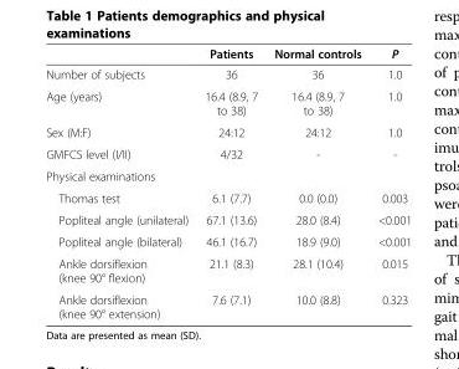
<table><thead><tr><td></td><td>Patients</td><td>Normal controls</td><td>P</td></tr></thead><tbody><tr><td>Number of subjects</td><td>36</td><td>36</td><td>1.0</td></tr><tr><td>Age (years)</td><td>16.4 (8.9, 7 to 38)</td><td>16.4 (8.9, 7 to 38)</td><td>1.0</td></tr><tr><td>Sex (M:F)</td><td>24:12</td><td>24:12</td><td>1.0</td></tr><tr><td>GMFCS level (I/II)</td><td>4/32</td><td>-</td><td>-</td></tr><tr><td colspan="4">Physical examinations</td></tr><tr><td>Thomas test</td><td>6.1 (7.7)</td><td>0.0 (0.0)</td><td>0.003</td></tr><tr><td>Popliteal angle (unilateral)</td><td>67.1 (13.6)</td><td>28.0 (8.4)</td><td>&lt;0.001</td></tr><tr><td>Popliteal angle (bilateral)</td><td>46.1 (16.7)</td><td>18.9 (9.0)</td><td>&lt;0.001</td></tr><tr><td>Ankle dorsiflexion (knee 90° flexion)</td><td>21.1 (8.3)</td><td>28.1 (10.4)</td><td>0.015</td></tr><tr><td>Ankle dorsiflexion (knee 90° extension)</td><td>7.6 (7.1)</td><td>10.0 (8.8)</td><td>0.323</td></tr></tbody></table>